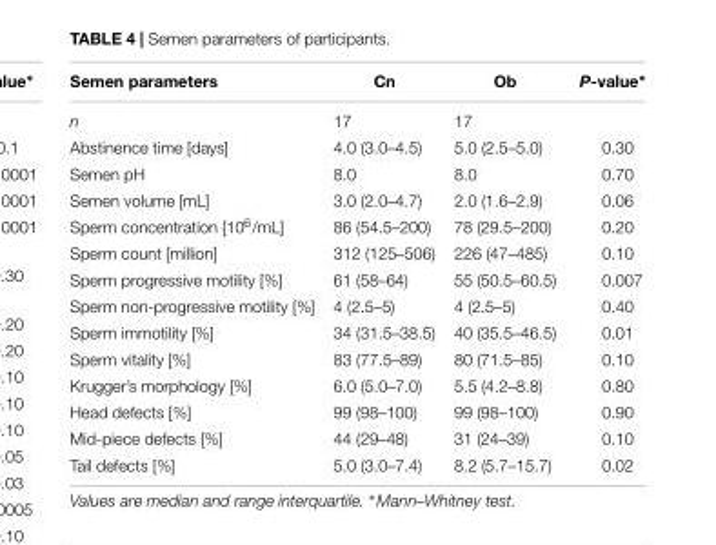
<table><thead><tr><td>Semen parameters</td><td>Cn</td><td>Ob</td><td>P-value∗</td></tr></thead><tbody><tr><td>n</td><td>17</td><td>17</td><td></td></tr><tr><td>Abstinence time [days]</td><td>4.0 (3.0–4.5)</td><td>5.0 (2.5–5.0)</td><td>0.30</td></tr><tr><td>Semen pH</td><td>8.0</td><td>8.0</td><td>0.70</td></tr><tr><td>Semen volume [mL]</td><td>3.0 (2.0–4.7)</td><td>2.0 (1.6–2.9)</td><td>0.06</td></tr><tr><td>Sperm concentration [10<sup>6</sup>/mL]</td><td>86 (54.5–200)</td><td>78 (29.5–200)</td><td>0.20</td></tr><tr><td>Sperm count [million]</td><td>312 (125–506)</td><td>226 (47–485)</td><td>0.10</td></tr><tr><td>Sperm progressive motility [%]</td><td>61 (58–64)</td><td>55 (50.5–60.5)</td><td>0.007</td></tr><tr><td>Sperm non-progressive motility [%]</td><td>4 (2.5–5)</td><td>4 (2.5–5)</td><td>0.40</td></tr><tr><td>Sperm immotility [%]</td><td>34 (31.5–38.5)</td><td>40 (35.5–46.5)</td><td>0.01</td></tr><tr><td>Sperm vitality [%]</td><td>83 (77.5–89)</td><td>80 (71.5–85)</td><td>0.10</td></tr><tr><td>Krugger’s morphology [%]</td><td>6.0 (5.0–7.0)</td><td>5.5 (4.2–8.8)</td><td>0.80</td></tr><tr><td>Head defects [%]</td><td>99 (98–100)</td><td>99 (98–100)</td><td>0.90</td></tr><tr><td>Mid-piece defects [%]</td><td>44 (29–48)</td><td>31 (24–39)</td><td>0.10</td></tr><tr><td>Tail defects [%]</td><td>5.0 (3.0–7.4)</td><td>8.2 (5.7–15.7)</td><td>0.02</td></tr></tbody></table>